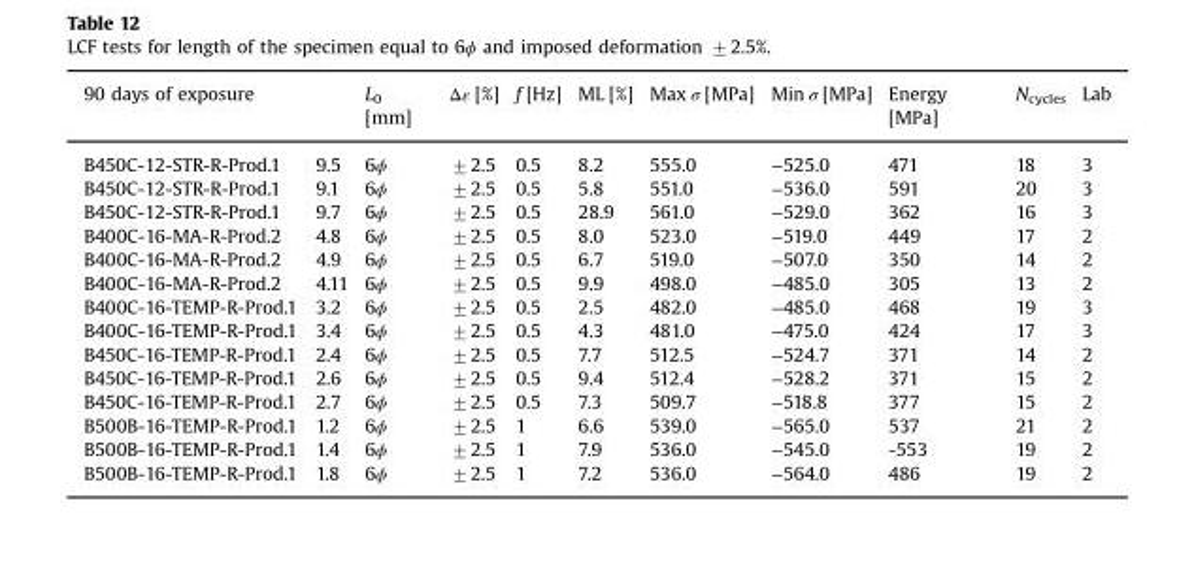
<table><thead><tr><td>90 days of exposure</td><td></td><td>L<sub>0</sub> [mm]</td><td>Δε [%]</td><td>f [Hz]</td><td>ML [%]</td><td>Max σ [MPa]</td><td>Min σ [MPa]</td><td>Energy [MPa]</td><td>N<sub>cycles</sub></td><td>Lab</td></tr></thead><tbody><tr><td>B450C-12-STR-R-Prod.1</td><td>9.5</td><td>6ϕ</td><td>±2.5</td><td>0.5</td><td>8.2</td><td>555.0</td><td>−525.0</td><td>471</td><td>18</td><td>3</td></tr><tr><td>B450C-12-STR-R-Prod.1</td><td>9.1</td><td>6ϕ</td><td>±2.5</td><td>0.5</td><td>5.8</td><td>551.0</td><td>−536.0</td><td>591</td><td>20</td><td>3</td></tr><tr><td>B450C-12-STR-R-Prod.1</td><td>9.7</td><td>6ϕ</td><td>±2.5</td><td>0.5</td><td>28.9</td><td>561.0</td><td>−529.0</td><td>362</td><td>16</td><td>3</td></tr><tr><td>B400C-16-MA-R-Prod.2</td><td>4.8</td><td>6ϕ</td><td>±2.5</td><td>0.5</td><td>8.0</td><td>523.0</td><td>−519.0</td><td>449</td><td>17</td><td>2</td></tr><tr><td>B400C-16-MA-R-Prod.2</td><td>4.9</td><td>6ϕ</td><td>±2.5</td><td>0.5</td><td>6.7</td><td>519.0</td><td>−507.0</td><td>350</td><td>14</td><td>2</td></tr><tr><td>B400C-16-MA-R-Prod.2</td><td>4.11</td><td>6ϕ</td><td>±2.5</td><td>0.5</td><td>9.9</td><td>498.0</td><td>−485.0</td><td>305</td><td>13</td><td>2</td></tr><tr><td>B400C-16-TEMP-R-Prod.1</td><td>3.2</td><td>6ϕ</td><td>±2.5</td><td>0.5</td><td>2.5</td><td>482.0</td><td>−485.0</td><td>468</td><td>19</td><td>3</td></tr><tr><td>B400C-16-TEMP-R-Prod.1</td><td>3.4</td><td>6ϕ</td><td>±2.5</td><td>0.5</td><td>4.3</td><td>481.0</td><td>−475.0</td><td>424</td><td>17</td><td>3</td></tr><tr><td>B450C-16-TEMP-R-Prod.1</td><td>2.4</td><td>6ϕ</td><td>±2.5</td><td>0.5</td><td>7.7</td><td>512.5</td><td>−524.7</td><td>371</td><td>14</td><td>2</td></tr><tr><td>B450C-16-TEMP-R-Prod.1</td><td>2.6</td><td>6ϕ</td><td>±2.5</td><td>0.5</td><td>9.4</td><td>512.4</td><td>−528.2</td><td>371</td><td>15</td><td>2</td></tr><tr><td>B450C-16-TEMP-R-Prod.1</td><td>2.7</td><td>6ϕ</td><td>±2.5</td><td>0.5</td><td>7.3</td><td>509.7</td><td>−518.8</td><td>377</td><td>15</td><td>2</td></tr><tr><td>B500B-16-TEMP-R-Prod.1</td><td>1.2</td><td>6ϕ</td><td>±2.5</td><td>1</td><td>6.6</td><td>539.0</td><td>−565.0</td><td>537</td><td>21</td><td>2</td></tr><tr><td>B500B-16-TEMP-R-Prod.1</td><td>1.4</td><td>6ϕ</td><td>±2.5</td><td>1</td><td>7.9</td><td>536.0</td><td>−545.0</td><td>-553</td><td>19</td><td>2</td></tr><tr><td>B500B-16-TEMP-R-Prod.1</td><td>1.8</td><td>6ϕ</td><td>±2.5</td><td>1</td><td>7.2</td><td>536.0</td><td>−564.0</td><td>486</td><td>19</td><td>2</td></tr></tbody></table>